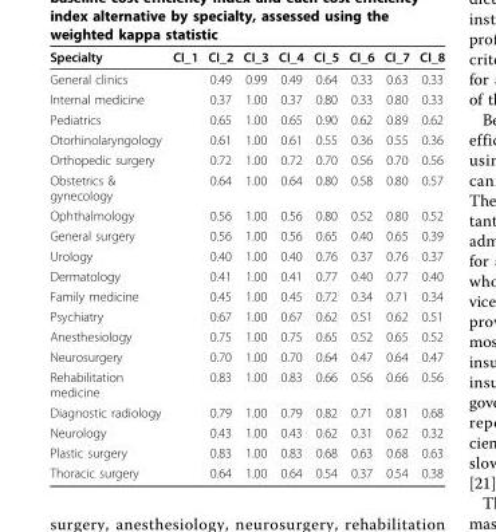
<table><thead><tr><td>Specialty</td><td>CI_1</td><td>CI_2</td><td>CI_3</td><td>CI_4</td><td>CI_5</td><td>CI_6</td><td>CI_7</td><td>CI_8</td></tr></thead><tbody><tr><td>General clinics</td><td></td><td>0.49</td><td>0.99</td><td>0.49</td><td>0.64</td><td>0.33</td><td>0.63</td><td>0.33</td></tr><tr><td>Internal medicine</td><td></td><td>0.37</td><td>1.00</td><td>0.37</td><td>0.80</td><td>0.33</td><td>0.80</td><td>0.33</td></tr><tr><td>Pediatrics</td><td></td><td>0.65</td><td>1.00</td><td>0.65</td><td>0.90</td><td>0.62</td><td>0.89</td><td>0.62</td></tr><tr><td>Otorhinolaryngology</td><td></td><td>0.61</td><td>1.00</td><td>0.61</td><td>0.55</td><td>0.36</td><td>0.55</td><td>0.36</td></tr><tr><td>Orthopedic surgery</td><td></td><td>0.72</td><td>1.00</td><td>0.72</td><td>0.70</td><td>0.56</td><td>0.70</td><td>0.56</td></tr><tr><td>Obstetrics &amp; gynecology</td><td></td><td>0.64</td><td>1.00</td><td>0.64</td><td>0.80</td><td>0.58</td><td>0.80</td><td>0.57</td></tr><tr><td>Ophthalmology</td><td></td><td>0.56</td><td>1.00</td><td>0.56</td><td>0.80</td><td>0.52</td><td>0.80</td><td>0.52</td></tr><tr><td>General surgery</td><td></td><td>0.56</td><td>1.00</td><td>0.56</td><td>0.65</td><td>0.40</td><td>0.65</td><td>0.39</td></tr><tr><td>Urology</td><td></td><td>0.40</td><td>1.00</td><td>0.40</td><td>0.76</td><td>0.37</td><td>0.76</td><td>0.37</td></tr><tr><td>Dermatology</td><td></td><td>0.41</td><td>1.00</td><td>0.41</td><td>0.77</td><td>0.40</td><td>0.77</td><td>0.40</td></tr><tr><td>Family medicine</td><td></td><td>0.45</td><td>1.00</td><td>0.45</td><td>0.72</td><td>0.34</td><td>0.71</td><td>0.34</td></tr><tr><td>Psychiatry</td><td></td><td>0.67</td><td>1.00</td><td>0.67</td><td>0.62</td><td>0.51</td><td>0.62</td><td>0.51</td></tr><tr><td>Anesthesiology</td><td></td><td>0.75</td><td>1.00</td><td>0.75</td><td>0.65</td><td>0.52</td><td>0.65</td><td>0.52</td></tr><tr><td>Neurosurgery</td><td></td><td>0.70</td><td>1.00</td><td>0.70</td><td>0.64</td><td>0.47</td><td>0.64</td><td>0.47</td></tr><tr><td>Rehabilitation medicine</td><td></td><td>0.83</td><td>1.00</td><td>0.83</td><td>0.66</td><td>0.56</td><td>0.66</td><td>0.56</td></tr><tr><td>Diagnostic radiology</td><td></td><td>0.79</td><td>1.00</td><td>0.79</td><td>0.82</td><td>0.71</td><td>0.81</td><td>0.68</td></tr><tr><td>Neurology</td><td></td><td>0.43</td><td>1.00</td><td>0.43</td><td>0.62</td><td>0.31</td><td>0.62</td><td>0.32</td></tr><tr><td>Plastic surgery</td><td></td><td>0.83</td><td>1.00</td><td>0.83</td><td>0.68</td><td>0.63</td><td>0.68</td><td>0.63</td></tr><tr><td>Thoracic surgery</td><td></td><td>0.64</td><td>1.00</td><td>0.64</td><td>0.54</td><td>0.37</td><td>0.54</td><td>0.38</td></tr></tbody></table>